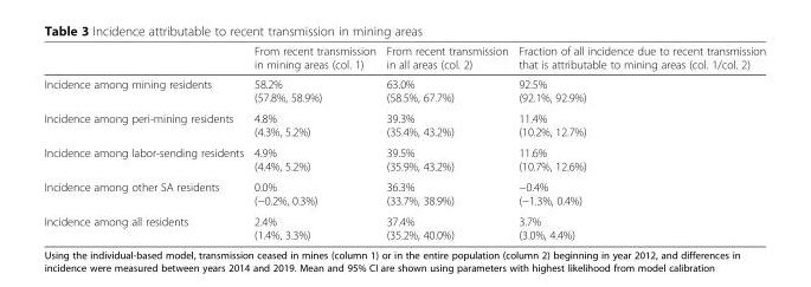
<table><thead><tr><td></td><td>From recent transmission in mining areas (col. 1)</td><td>From recent transmission in all areas (col. 2)</td><td>Fraction of all incidence due to recent transmission that is attributable to mining areas (col. 1/col. 2)</td></tr></thead><tbody><tr><td>Incidence among mining residents</td><td>58.2% (57.8%, 58.9%)</td><td>63.0% (58.5%, 67.7%)</td><td>92.5% (92.1%, 92.9%)</td></tr><tr><td>Incidence among peri-mining residents</td><td>4.8% (4.3%, 5.2%)</td><td>39.3% (35.4%, 43.2%)</td><td>11.4% (10.2%, 12.7%)</td></tr><tr><td>Incidence among labor-sending residents</td><td>4.9% (4.4%, 5.2%)</td><td>39.5% (35.9%, 43.2%)</td><td>11.6% (10.7%, 12.6%)</td></tr><tr><td>Incidence among other SA residents</td><td>0.0% (−0.2%, 0.3%)</td><td>36.3% (33.7%, 38.9%)</td><td>−0.4% (−1.3%, 0.4%)</td></tr><tr><td>Incidence among all residents</td><td>2.4% (1.4%, 3.3%)</td><td>37.4% (35.2%, 40.0%)</td><td>3.7% (3.0%, 4.4%)</td></tr></tbody></table>